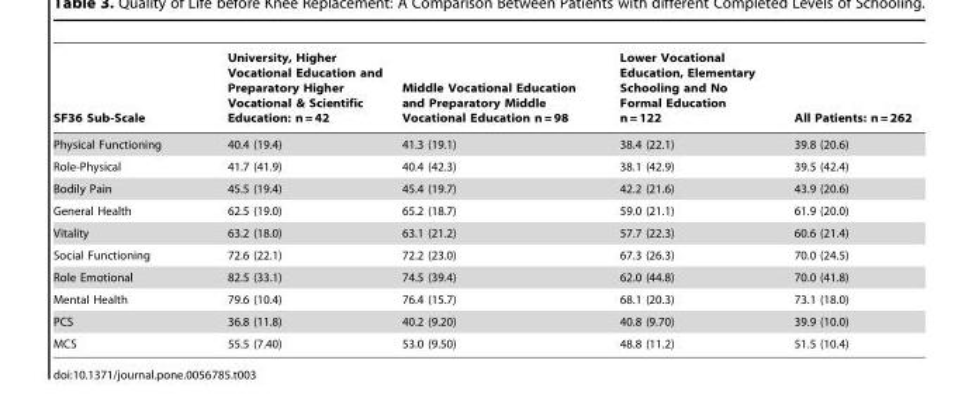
<table><thead><tr><td>SF36 Sub-Scale</td><td>University, Higher Vocational Education and Preparatory Higher Vocational &amp; Scientific Education: n = 42</td><td>Middle Vocational Education and Preparatory Middle Vocational Education n = 98</td><td>Lower Vocational Education, Elementary Schooling and No Formal Education n = 122</td><td>All Patients: n = 262</td></tr></thead><tbody><tr><td>Physical Functioning</td><td>40.4 (19.4)</td><td>41.3 (19.1)</td><td>38.4 (22.1)</td><td>39.8 (20.6)</td></tr><tr><td>Role-Physical</td><td>41.7 (41.9)</td><td>40.4 (42.3)</td><td>38.1 (42.9)</td><td>39.5 (42.4)</td></tr><tr><td>Bodily Pain</td><td>45.5 (19.4)</td><td>45.4 (19.7)</td><td>42.2 (21.6)</td><td>43.9 (20.6)</td></tr><tr><td>General Health</td><td>62.5 (19.0)</td><td>65.2 (18.7)</td><td>59.0 (21.1)</td><td>61.9 (20.0)</td></tr><tr><td>Vitality</td><td>63.2 (18.0)</td><td>63.1 (21.2)</td><td>57.7 (22.3)</td><td>60.6 (21.4)</td></tr><tr><td>Social Functioning</td><td>72.6 (22.1)</td><td>72.2 (23.0)</td><td>67.3 (26.3)</td><td>70.0 (24.5)</td></tr><tr><td>Role Emotional</td><td>82.5 (33.1)</td><td>74.5 (39.4)</td><td>62.0 (44.8)</td><td>70.0 (41.8)</td></tr><tr><td>Mental Health</td><td>79.6 (10.4)</td><td>76.4 (15.7)</td><td>68.1 (20.3)</td><td>73.1 (18.0)</td></tr><tr><td>PCS</td><td>36.8 (11.8)</td><td>40.2 (9.20)</td><td>40.8 (9.70)</td><td>39.9 (10.0)</td></tr><tr><td>MCS</td><td>55.5 (7.40)</td><td>53.0 (9.50)</td><td>48.8 (11.2)</td><td>51.5 (10.4)</td></tr></tbody></table>